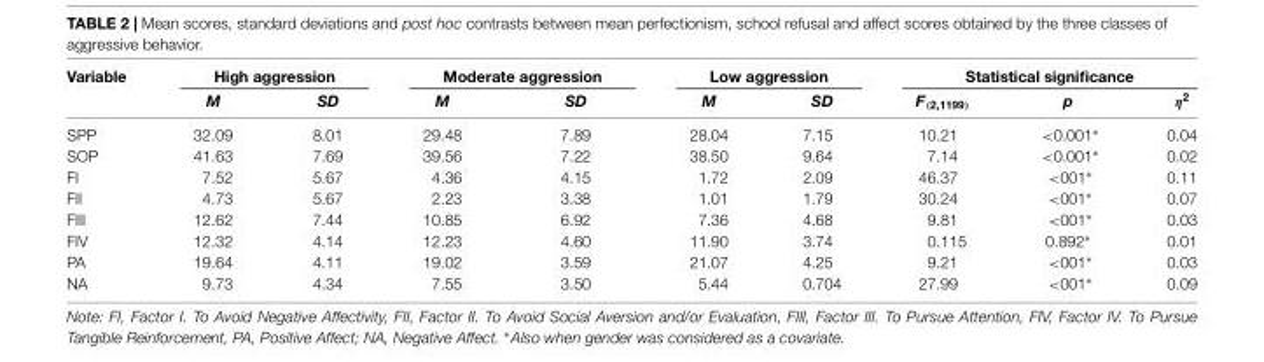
<table><thead><tr><td rowspan="2">Variable</td><td colspan="2">High aggression</td><td colspan="2">Moderate aggression</td><td colspan="2">Low aggression</td><td colspan="3">Statistical significance</td></tr><tr><td>M</td><td>SD</td><td>M</td><td>SD</td><td>M</td><td>SD</td><td>F<sub>(2,1199)</sub></td><td>p</td><td>η<sup>2</sup></td></tr></thead><tbody><tr><td>SPP</td><td>32.09</td><td>8.01</td><td>29.48</td><td>7.89</td><td>28.04</td><td>7.15</td><td>10.21</td><td>&lt;0.001∗</td><td>0.04</td></tr><tr><td>SOP</td><td>41.63</td><td>7.69</td><td>39.56</td><td>7.22</td><td>38.50</td><td>9.64</td><td>7.14</td><td>&lt;0.001∗</td><td>0.02</td></tr><tr><td>FI</td><td>7.52</td><td>5.67</td><td>4.36</td><td>4.15</td><td>1.72</td><td>2.09</td><td>46.37</td><td>&lt;001∗</td><td>0.11</td></tr><tr><td>FII</td><td>4.73</td><td>5.67</td><td>2.23</td><td>3.38</td><td>1.01</td><td>1.79</td><td>30.24</td><td>&lt;001∗</td><td>0.07</td></tr><tr><td>FIII</td><td>12.62</td><td>7.44</td><td>10.85</td><td>6.92</td><td>7.36</td><td>4.68</td><td>9.81</td><td>&lt;001∗</td><td>0.03</td></tr><tr><td>FIV</td><td>12.32</td><td>4.14</td><td>12.23</td><td>4.60</td><td>11.90</td><td>3.74</td><td>0.115</td><td>0.892∗</td><td>0.01</td></tr><tr><td>PA</td><td>19.64</td><td>4.11</td><td>19.02</td><td>3.59</td><td>21.07</td><td>4.25</td><td>9.21</td><td>&lt;001∗</td><td>0.03</td></tr><tr><td>NA</td><td>9.73</td><td>4.34</td><td>7.55</td><td>3.50</td><td>5.44</td><td>0.704</td><td>27.99</td><td>&lt;001∗</td><td>0.09</td></tr></tbody></table>